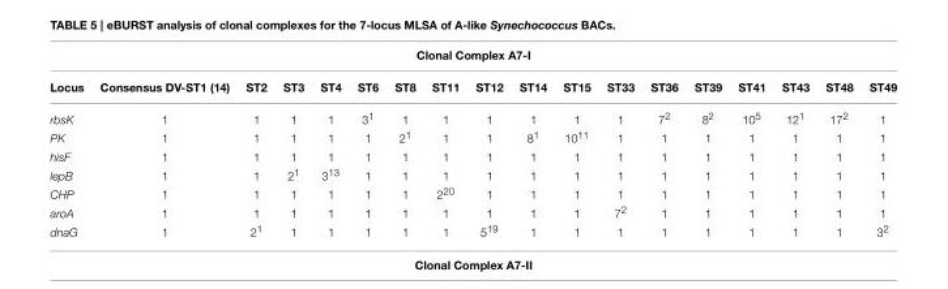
<table><thead><tr><td colspan="18">Clonal Complex A7-I</td></tr><tr><td>Locus</td><td>Consensus DV-ST1 (14)</td><td>ST2</td><td>ST3</td><td>ST4</td><td>ST6</td><td>ST8</td><td>ST11</td><td>ST12</td><td>ST14</td><td>ST15</td><td>ST33</td><td>ST36</td><td>ST39</td><td>ST41</td><td>ST43</td><td>ST48</td><td>ST49</td></tr></thead><tbody><tr><td>rbsK</td><td>1</td><td>1</td><td>1</td><td>1</td><td>3<sup>1</sup></td><td>1</td><td>1</td><td>1</td><td>1</td><td>1</td><td>1</td><td>7<sup>2</sup></td><td>8<sup>2</sup></td><td>10<sup>5</sup></td><td>12<sup>1</sup></td><td>17<sup>2</sup></td><td>1</td></tr><tr><td>PK</td><td>1</td><td>1</td><td>1</td><td>1</td><td>1</td><td>2<sup>1</sup></td><td>1</td><td>1</td><td>8<sup>1</sup></td><td>10<sup>11</sup></td><td>1</td><td>1</td><td>1</td><td>1</td><td>1</td><td>1</td><td>1</td></tr><tr><td>hisF</td><td>1</td><td>1</td><td>1</td><td>1</td><td>1</td><td>1</td><td>1</td><td>1</td><td>1</td><td>1</td><td>1</td><td>1</td><td>1</td><td>1</td><td>1</td><td>1</td><td>1</td></tr><tr><td>lepB</td><td>1</td><td>1</td><td>2<sup>1</sup></td><td>3<sup>13</sup></td><td>1</td><td>1</td><td>1</td><td>1</td><td>1</td><td>1</td><td>1</td><td>1</td><td>1</td><td>1</td><td>1</td><td>1</td><td>1</td></tr><tr><td>CHP</td><td>1</td><td>1</td><td>1</td><td>1</td><td>1</td><td>1</td><td>2<sup>20</sup></td><td>1</td><td>1</td><td>1</td><td>1</td><td>1</td><td>1</td><td>1</td><td>1</td><td>1</td><td>1</td></tr><tr><td>aroA</td><td>1</td><td>1</td><td>1</td><td>1</td><td>1</td><td>1</td><td>1</td><td>1</td><td>1</td><td>1</td><td>7<sup>2</sup></td><td>1</td><td>1</td><td>1</td><td>1</td><td>1</td><td>1</td></tr><tr><td>dnaG</td><td>1</td><td>2<sup>1</sup></td><td>1</td><td>1</td><td>1</td><td>1</td><td>1</td><td>5<sup>19</sup></td><td>1</td><td>1</td><td>1</td><td>1</td><td>1</td><td>1</td><td>1</td><td>1</td><td>3<sup>2</sup></td></tr></tbody></table>